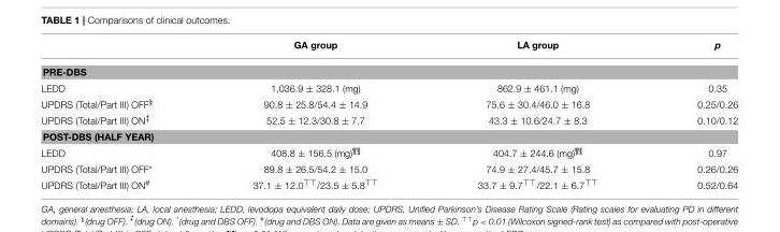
<table><thead><tr><td></td><td>GA group</td><td>LA group</td><td>p</td></tr></thead><tbody><tr><td colspan="4">PRE-DBS</td></tr><tr><td>LEDD</td><td>1,036.9 ± 328.1 (mg)</td><td>862.9 ± 461.1 (mg)</td><td>0.35</td></tr><tr><td>UPDRS (Total/Part III) OFF<sup>§</sup></td><td>90.8 ± 25.8/54.4 ± 14.9</td><td>75.6 ± 30.4/46.0 ± 16.8</td><td>0.25/0.26</td></tr><tr><td>UPDRS (Total/Part III) ON<sup>‡</sup></td><td>52.5 ± 12.3/30.8 ± 7.7</td><td>43.3 ± 10.6/24.7 ± 8.3</td><td>0.10/0.12</td></tr><tr><td colspan="4">POST-DBS (HALF YEAR)</td></tr><tr><td>LEDD</td><td>408.8 ± 156.5 (mg)<sup>¶¶</sup></td><td>404.7 ± 244.6 (mg)<sup>¶¶</sup></td><td>0.97</td></tr><tr><td>UPDRS (Total/Part III) OFF*</td><td>89.8 ± 26.5/54.2 ± 15.0</td><td>74.9 ± 27.4/45.7 ± 15.8</td><td>0.26/0.26</td></tr><tr><td>UPDRS (Total/Part III) ON<sup>#</sup></td><td>37.1 ± 12.0<sup>⊤⊤</sup>/23.5 ± 5.8<sup>⊤⊤</sup></td><td>33.7 ± 9.7<sup>⊤⊤</sup>/22.1 ± 6.7<sup>⊤⊤</sup></td><td>0.52/0.64</td></tr></tbody></table>